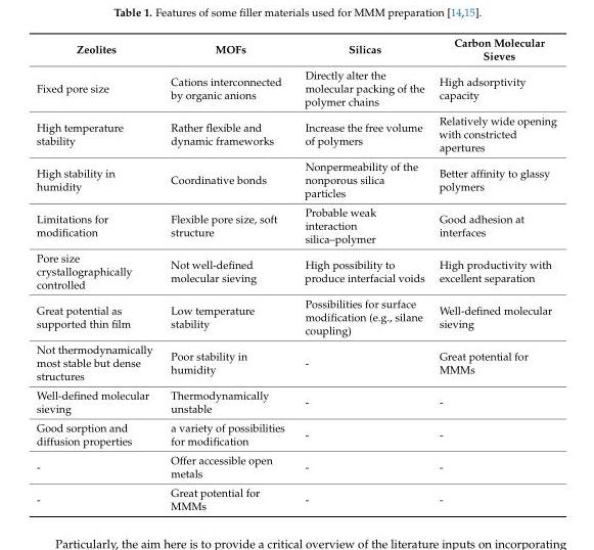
<table><thead><tr><td>Zeolites</td><td>MOFs</td><td>Silicas</td><td>Carbon Molecular Sieves</td></tr></thead><tbody><tr><td>Fixed pore size</td><td>Cations interconnected by organic anions</td><td>Directly alter the molecular packing of the polymer chains</td><td>High adsorptivity capacity</td></tr><tr><td>High temperature stability</td><td>Rather flexible and dynamic frameworks</td><td>Increase the free volume of polymers</td><td>Relatively wide opening with constricted apertures</td></tr><tr><td>High stability in humidity</td><td>Coordinative bonds</td><td>Nonpermeability of the nonporous silica particles</td><td>Better affinity to glassy polymers</td></tr><tr><td>Limitations for modification</td><td>Flexible pore size, soft structure</td><td>Probable weak interaction silica–polymer</td><td>Good adhesion at interfaces</td></tr><tr><td>Pore size crystallographically controlled</td><td>Not well-defined molecular sieving</td><td>High possibility to produce interfacial voids</td><td>High productivity with excellent separation</td></tr><tr><td>Great potential as supported thin film</td><td>Low temperature stability</td><td>Possibilities for surface modification (e.g., silane coupling)</td><td>Well-defined molecular sieving</td></tr><tr><td>Not thermodynamically most stable but dense structures</td><td>Poor stability in humidity</td><td>-</td><td>Great potential for MMMs</td></tr><tr><td>Well-defined molecular sieving</td><td>Thermodynamically unstable</td><td>-</td><td>-</td></tr><tr><td>Good sorption and diffusion properties</td><td>a variety of possibilities for modification</td><td>-</td><td>-</td></tr><tr><td>-</td><td>Offer accessible open metals</td><td>-</td><td>-</td></tr><tr><td>-</td><td>Great potential for MMMs</td><td>-</td><td>-</td></tr></tbody></table>